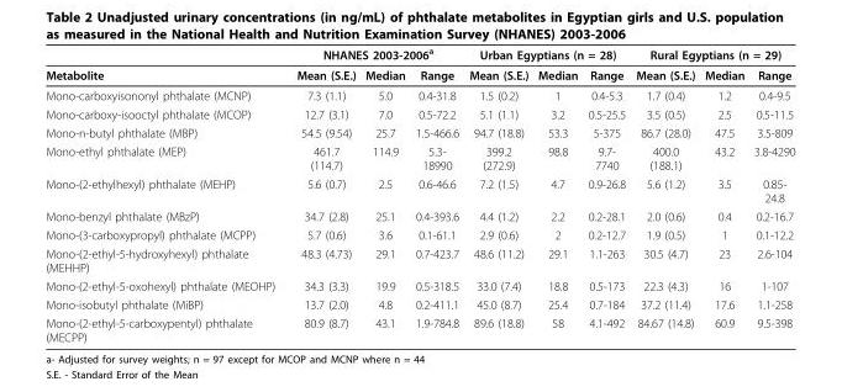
<table><thead><tr><td rowspan="2">Metabolite</td><td colspan="3">NHANES 2003-2006a</td><td colspan="3">Urban Egyptians (n = 28)</td><td colspan="3">Rural Egyptians (n = 29)</td></tr><tr><td>Mean (S.E.)</td><td>Median</td><td>Range</td><td>Mean (S.E.)</td><td>Median</td><td>Range</td><td>Mean (S.E.)</td><td>Median</td><td>Range</td></tr></thead><tbody><tr><td>Mono-carboxyisononyl phthalate (MCNP)</td><td>7.3 (1.1)</td><td>5.0</td><td>0.4-31.8</td><td>1.5 (0.2)</td><td>1</td><td>0.4-5.3</td><td>1.7 (0.4)</td><td>1.2</td><td>0.4-9.5</td></tr><tr><td>Mono-carboxy-isooctyl phthalate (MCOP)</td><td>12.7 (3.1)</td><td>7.0</td><td>0.5-72.2</td><td>5.1 (1.1)</td><td>3.2</td><td>0.5-25.5</td><td>3.5 (0.5)</td><td>2.5</td><td>0.5-11.5</td></tr><tr><td>Mono-n-butyl phthalate (MBP)</td><td>54.5 (9.54)</td><td>25.7</td><td>1.5-466.6</td><td>94.7 (18.8)</td><td>53.3</td><td>5-375</td><td>86.7 (28.0)</td><td>47.5</td><td>3.5-809</td></tr><tr><td>Mono-ethyl phthalate (MEP)</td><td>461.7 (114.7)</td><td>114.9</td><td>5.3- 18990</td><td>399.2 (272.9)</td><td>98.8</td><td>9.7- 7740</td><td>400.0 (188.1)</td><td>43.2</td><td>3.8-4290</td></tr><tr><td>Mono-(2-ethylhexyl) phthalate (MEHP)</td><td>5.6 (0.7)</td><td>2.5</td><td>0.6-46.6</td><td>7.2 (1.5)</td><td>4.7</td><td>0.9-26.8</td><td>5.6 (1.2)</td><td>3.5</td><td>0.85- 24.8</td></tr><tr><td>Mono-benzyl phthalate (MBzP)</td><td>34.7 (2.8)</td><td>25.1</td><td>0.4-393.6</td><td>4.4 (1.2)</td><td>2.2</td><td>0.2-28.1</td><td>2.0 (0.6)</td><td>0.4</td><td>0.2-16.7</td></tr><tr><td>Mono-(3-carboxypropyl) phthalate (MCPP)</td><td>5.7 (0.6)</td><td>3.6</td><td>0.1-61.1</td><td>2.9 (0.6)</td><td>2</td><td>0.2-12.7</td><td>1.9 (0.5)</td><td>1</td><td>0.1-12.2</td></tr><tr><td>Mono-(2-ethyl-5-hydroxyhexyl) phthalate (MEHHP)</td><td>48.3 (4.73)</td><td>29.1</td><td>0.7-423.7</td><td>48.6 (11.2)</td><td>29.1</td><td>1.1-263</td><td>30.5 (4.7)</td><td>23</td><td>2.6-104</td></tr><tr><td>Mono-(2-ethyl-5-oxohexyl) phthalate (MEOHP)</td><td>34.3 (3.3)</td><td>19.9</td><td>0.5-318.5</td><td>33.0 (7.4)</td><td>18.8</td><td>0.5-173</td><td>22.3 (4.3)</td><td>16</td><td>1-107</td></tr><tr><td>Mono-isobutyl phthalate (MiBP)</td><td>13.7 (2.0)</td><td>4.8</td><td>0.2-411.1</td><td>45.0 (8.7)</td><td>25.4</td><td>0.7-184</td><td>37.2 (11.4)</td><td>17.6</td><td>1.1-258</td></tr><tr><td>Mono-(2-ethyl-5-carboxypentyl) phthalate (MECPP)</td><td>80.9 (8.7)</td><td>43.1</td><td>1.9-784.8</td><td>89.6 (18.8)</td><td>58</td><td>4.1-492</td><td>84.67 (14.8)</td><td>60.9</td><td>9.5-398</td></tr></tbody></table>